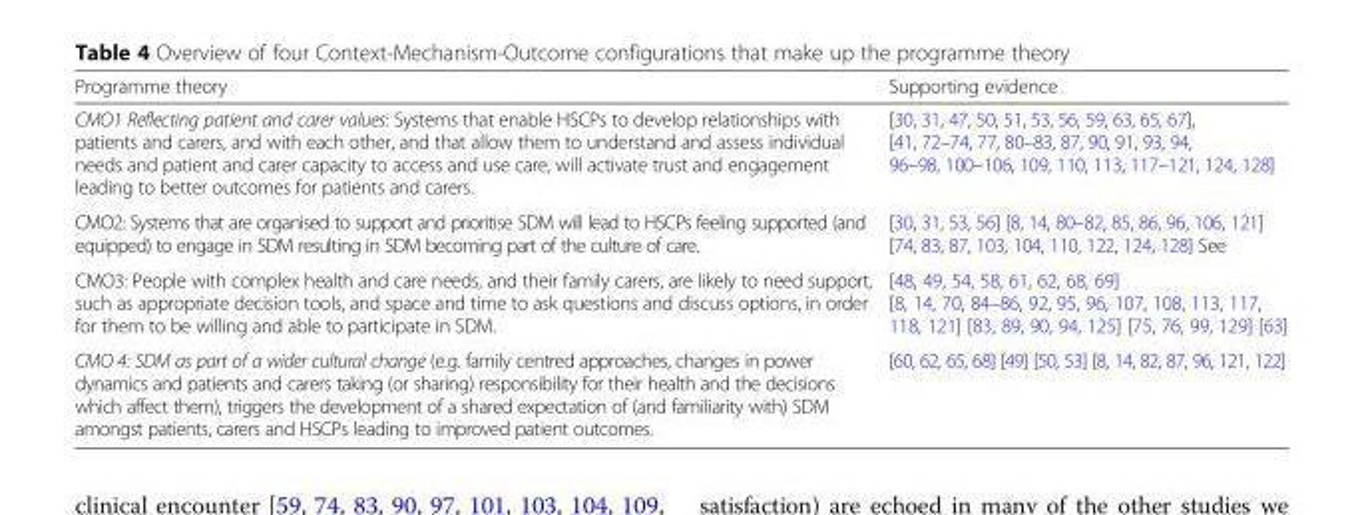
<table><thead><tr><td>Programme theory</td><td>Supporting evidence</td></tr></thead><tbody><tr><td>CMO1 Reflecting patient and carer values: Systems that enable HSCPs to develop relationships with patients and carers, and with each other, and that allow them to understand and assess individual needs and patient and carer capacity to access and use care, will activate trust and engagement leading to better outcomes for patients and carers.</td><td>[30, 31, 47, 50, 51, 53, 56, 59, 63, 65, 67], [41, 72–74, 77, 80–83, 87, 90, 91, 93, 94, 96–98, 100–106, 109, 110, 113, 117–121, 124, 128]</td></tr><tr><td>CMO2: Systems that are organised to support and prioritise SDM will lead to HSCPs feeling supported (and equipped) to engage in SDM resulting in SDM becoming part of the culture of care.</td><td>[30, 31, 53, 56] [8, 14, 80–82, 85, 86, 96, 106, 121] [74, 83, 87, 103, 104, 110, 122, 124, 128] See</td></tr><tr><td>CMO3: People with complex health and care needs, and their family carers, are likely to need support, such as appropriate decision tools, and space and time to ask questions and discuss options, in order for them to be willing and able to participate in SDM.</td><td>[48, 49, 54, 58, 61, 62, 68, 69] [8, 14, 70, 84–86, 92, 95, 96, 107, 108, 113, 117, 118, 121] [83, 89, 90, 94, 125] [75, 76, 99, 129] [63]</td></tr><tr><td>CMO 4: SDM as part of a wider cultural change (e.g. family centred approaches, changes in power dynamics and patients and carers taking (or sharing) responsibility for their health and the decisions which affect them), triggers the development of a shared expectation of (and familiarity with) SDM amongst patients, carers and HSCPs leading to improved patient outcomes.</td><td>[60, 62, 65, 68] [49] [50, 53] [8, 14, 82, 87, 96, 121, 122]</td></tr></tbody></table>